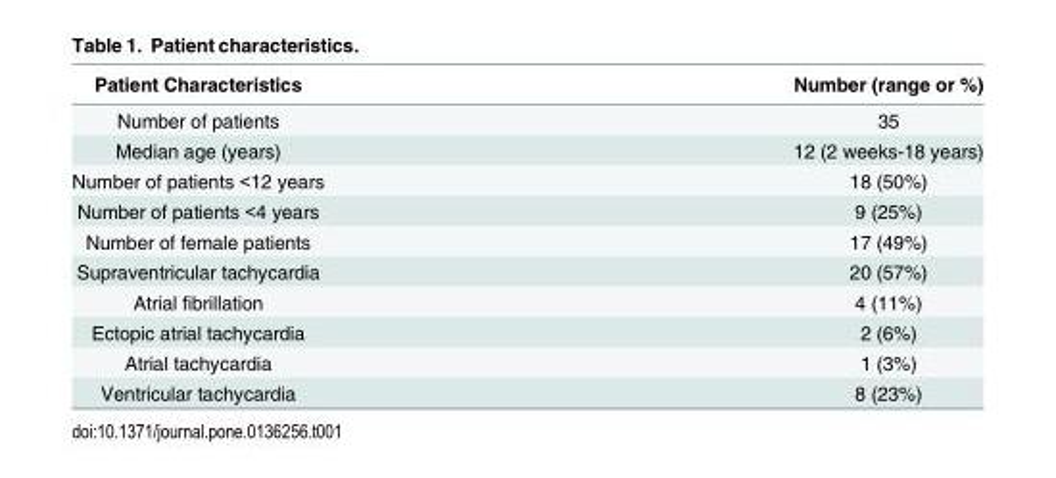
<table><thead><tr><td>Patient Characteristics</td><td>Number (range or %)</td></tr></thead><tbody><tr><td>Number of patients</td><td>35</td></tr><tr><td>Median age (years)</td><td>12 (2 weeks-18 years)</td></tr><tr><td>Number of patients &lt;12 years</td><td>18 (50%)</td></tr><tr><td>Number of patients &lt;4 years</td><td>9 (25%)</td></tr><tr><td>Number of female patients</td><td>17 (49%)</td></tr><tr><td>Supraventricular tachycardia</td><td>20 (57%)</td></tr><tr><td>Atrial fibrillation</td><td>4 (11%)</td></tr><tr><td>Ectopic atrial tachycardia</td><td>2 (6%)</td></tr><tr><td>Atrial tachycardia</td><td>1 (3%)</td></tr><tr><td>Ventricular tachycardia</td><td>8 (23%)</td></tr></tbody></table>